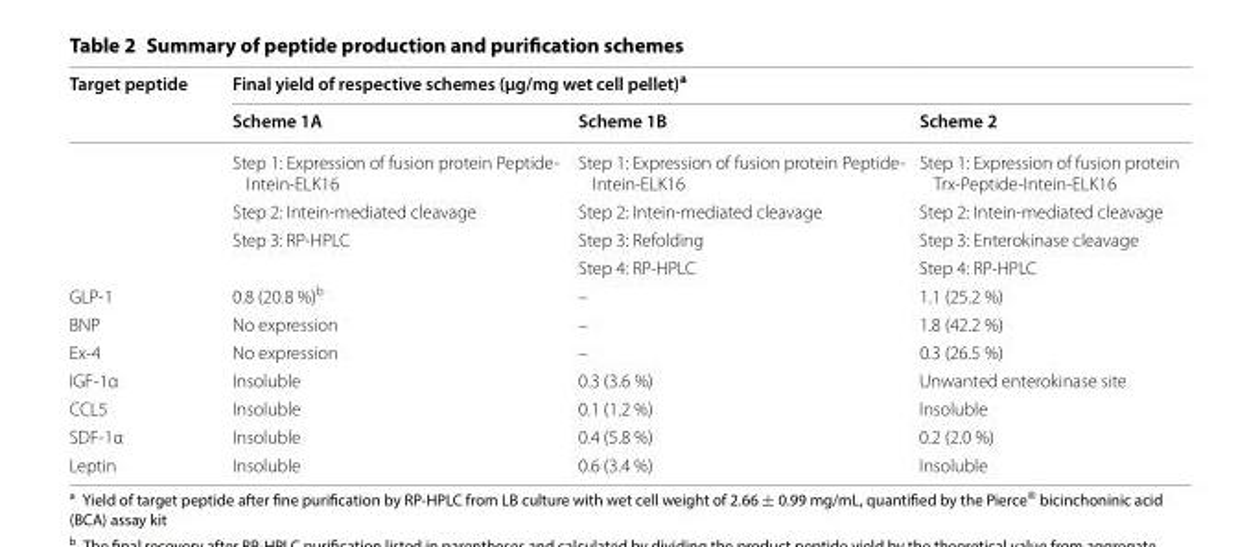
<table><thead><tr><td rowspan="2">Target peptide</td><td colspan="3">Final yield of respective schemes (μg/mg wet cell pellet)<sup>a</sup></td></tr><tr><td>Scheme 1A</td><td>Scheme 1B</td><td>Scheme 2</td></tr></thead><tbody><tr><td rowspan="4"></td><td>Step 1: Expression of fusion protein Peptide- Intein-ELK16</td><td>Step 1: Expression of fusion protein Peptide- Intein-ELK16</td><td>Step 1: Expression of fusion protein Trx-Peptide-Intein-ELK16</td></tr><tr><td>Step 2: Intein-mediated cleavage</td><td>Step 2: Intein-mediated cleavage</td><td>Step 2: Intein-mediated cleavage</td></tr><tr><td>Step 3: RP-HPLC</td><td>Step 3: Refolding</td><td>Step 3: Enterokinase cleavage</td></tr><tr><td></td><td>Step 4: RP-HPLC</td><td>Step 4: RP-HPLC</td></tr><tr><td>GLP-1</td><td>0.8 (20.8 %)<sup>b</sup></td><td>–</td><td>1.1 (25.2 %)</td></tr><tr><td>BNP</td><td>No expression</td><td>–</td><td>1.8 (42.2 %)</td></tr><tr><td>Ex-4</td><td>No expression</td><td>–</td><td>0.3 (26.5 %)</td></tr><tr><td>IGF-1α</td><td>Insoluble</td><td>0.3 (3.6 %)</td><td>Unwanted enterokinase site</td></tr><tr><td>CCL5</td><td>Insoluble</td><td>0.1 (1.2 %)</td><td>Insoluble</td></tr><tr><td>SDF-1α</td><td>Insoluble</td><td>0.4 (5.8 %)</td><td>0.2 (2.0 %)</td></tr><tr><td>Leptin</td><td>Insoluble</td><td>0.6 (3.4 %)</td><td>Insoluble</td></tr></tbody></table>